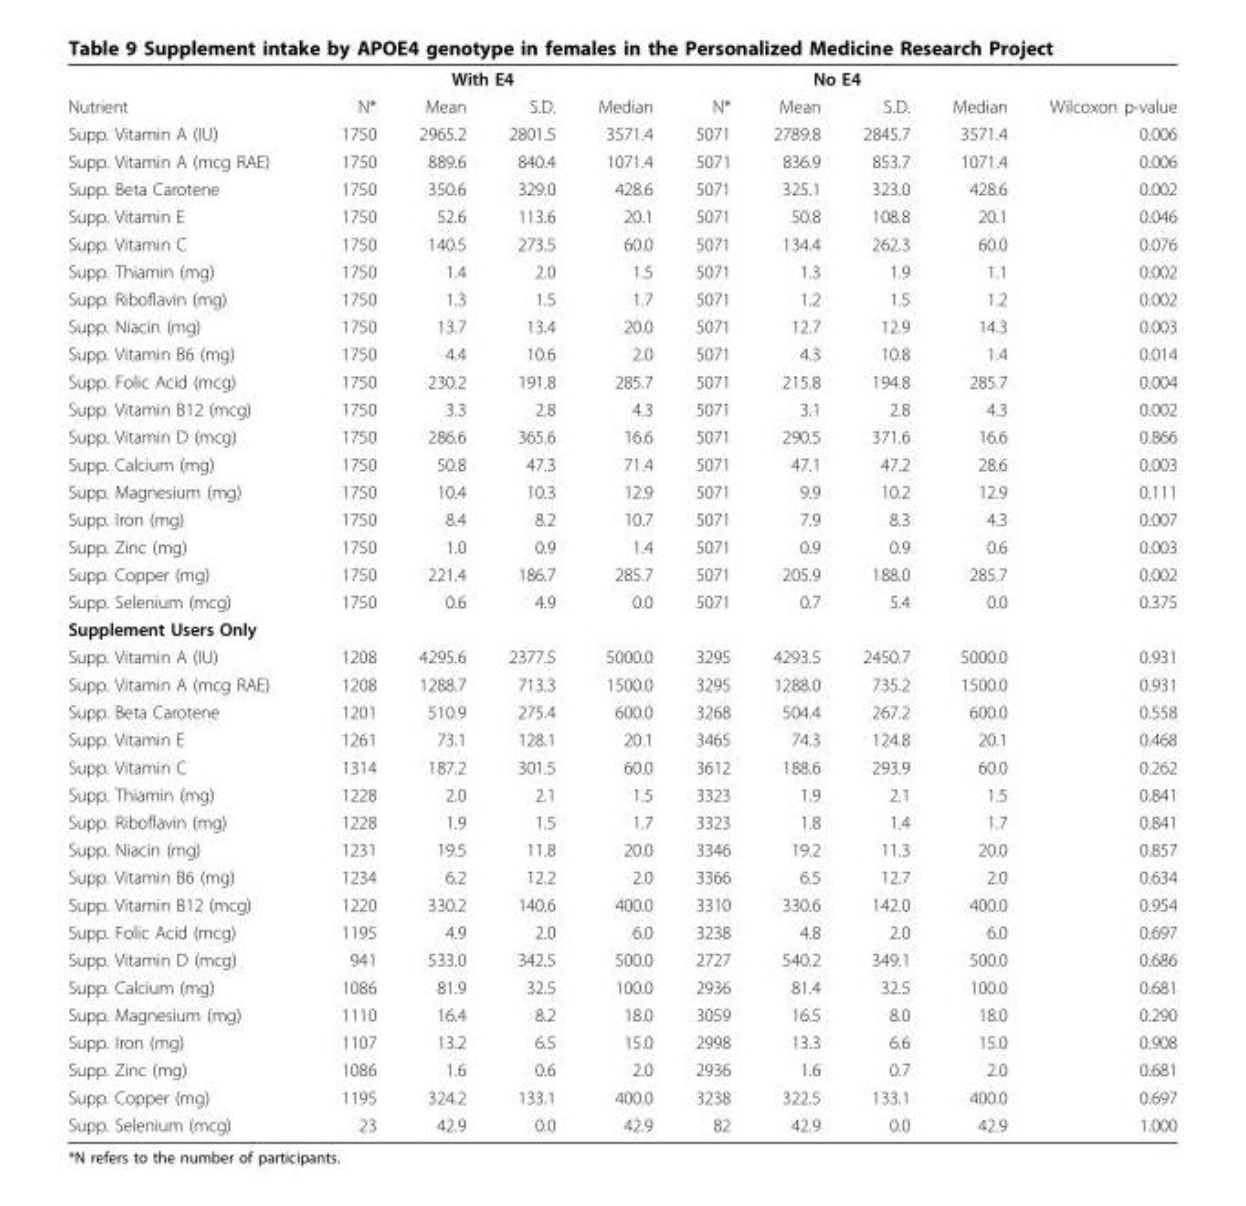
<table><thead><tr><td rowspan="2">Nutrient</td><td colspan="4">With E4</td><td colspan="4">No E4</td><td rowspan="2">Wilcoxon p-value</td></tr><tr><td>N*</td><td>Mean</td><td>S.D.</td><td>Median</td><td>N*</td><td>Mean</td><td>S.D.</td><td>Median</td></tr></thead><tbody><tr><td>Supp. Vitamin A (IU)</td><td>1750</td><td>2965.2</td><td>2801.5</td><td>3571.4</td><td>5071</td><td>2789.8</td><td>2845.7</td><td>3571.4</td><td>0.006</td></tr><tr><td>Supp. Vitamin A (mcg RAE)</td><td>1750</td><td>889.6</td><td>840.4</td><td>1071.4</td><td>5071</td><td>836.9</td><td>853.7</td><td>1071.4</td><td>0.006</td></tr><tr><td>Supp. Beta Carotene</td><td>1750</td><td>350.6</td><td>329.0</td><td>428.6</td><td>5071</td><td>325.1</td><td>323.0</td><td>428.6</td><td>0.002</td></tr><tr><td>Supp. Vitamin E</td><td>1750</td><td>52.6</td><td>113.6</td><td>20.1</td><td>5071</td><td>50.8</td><td>108.8</td><td>20.1</td><td>0.046</td></tr><tr><td>Supp. Vitamin C</td><td>1750</td><td>140.5</td><td>273.5</td><td>60.0</td><td>5071</td><td>134.4</td><td>262.3</td><td>60.0</td><td>0.076</td></tr><tr><td>Supp. Thiamin (mg)</td><td>1750</td><td>1.4</td><td>2.0</td><td>1.5</td><td>5071</td><td>1.3</td><td>1.9</td><td>1.1</td><td>0.002</td></tr><tr><td>Supp. Riboflavin (mg)</td><td>1750</td><td>1.3</td><td>1.5</td><td>1.7</td><td>5071</td><td>1.2</td><td>1.5</td><td>1.2</td><td>0.002</td></tr><tr><td>Supp. Niacin (mg)</td><td>1750</td><td>13.7</td><td>13.4</td><td>20.0</td><td>5071</td><td>12.7</td><td>12.9</td><td>14.3</td><td>0.003</td></tr><tr><td>Supp. Vitamin B6 (mg)</td><td>1750</td><td>4.4</td><td>10.6</td><td>2.0</td><td>5071</td><td>4.3</td><td>10.8</td><td>1.4</td><td>0.014</td></tr><tr><td>Supp. Folic Acid (mcg)</td><td>1750</td><td>230.2</td><td>191.8</td><td>285.7</td><td>5071</td><td>215.8</td><td>194.8</td><td>285.7</td><td>0.004</td></tr><tr><td>Supp. Vitamin B12 (mcg)</td><td>1750</td><td>3.3</td><td>2.8</td><td>4.3</td><td>5071</td><td>3.1</td><td>2.8</td><td>4.3</td><td>0.002</td></tr><tr><td>Supp. Vitamin D (mcg)</td><td>1750</td><td>286.6</td><td>365.6</td><td>16.6</td><td>5071</td><td>290.5</td><td>371.6</td><td>16.6</td><td>0.866</td></tr><tr><td>Supp. Calcium (mg)</td><td>1750</td><td>50.8</td><td>47.3</td><td>71.4</td><td>5071</td><td>47.1</td><td>47.2</td><td>28.6</td><td>0.003</td></tr><tr><td>Supp. Magnesium (mg)</td><td>1750</td><td>10.4</td><td>10.3</td><td>12.9</td><td>5071</td><td>9.9</td><td>10.2</td><td>12.9</td><td>0.111</td></tr><tr><td>Supp. Iron (mg)</td><td>1750</td><td>8.4</td><td>8.2</td><td>10.7</td><td>5071</td><td>7.9</td><td>8.3</td><td>4.3</td><td>0.007</td></tr><tr><td>Supp. Zinc (mg)</td><td>1750</td><td>1.0</td><td>0.9</td><td>1.4</td><td>5071</td><td>0.9</td><td>0.9</td><td>0.6</td><td>0.003</td></tr><tr><td>Supp. Copper (mg)</td><td>1750</td><td>221.4</td><td>186.7</td><td>285.7</td><td>5071</td><td>205.9</td><td>188.0</td><td>285.7</td><td>0.002</td></tr><tr><td>Supp. Selenium (mcg)</td><td>1750</td><td>0.6</td><td>4.9</td><td>0.0</td><td>5071</td><td>0.7</td><td>5.4</td><td>0.0</td><td>0.375</td></tr><tr><td colspan="10">Supplement Users Only</td></tr><tr><td>Supp. Vitamin A (IU)</td><td>1208</td><td>4295.6</td><td>2377.5</td><td>5000.0</td><td>3295</td><td>4293.5</td><td>2450.7</td><td>5000.0</td><td>0.931</td></tr><tr><td>Supp. Vitamin A (mcg RAE)</td><td>1208</td><td>1288.7</td><td>713.3</td><td>1500.0</td><td>3295</td><td>1288.0</td><td>735.2</td><td>1500.0</td><td>0.931</td></tr><tr><td>Supp. Beta Carotene</td><td>1201</td><td>510.9</td><td>275.4</td><td>600.0</td><td>3268</td><td>504.4</td><td>267.2</td><td>600.0</td><td>0.558</td></tr><tr><td>Supp. Vitamin E</td><td>1261</td><td>73.1</td><td>128.1</td><td>20.1</td><td>3465</td><td>74.3</td><td>124.8</td><td>20.1</td><td>0.468</td></tr><tr><td>Supp. Vitamin C</td><td>1314</td><td>187.2</td><td>301.5</td><td>60.0</td><td>3612</td><td>188.6</td><td>293.9</td><td>60.0</td><td>0.262</td></tr><tr><td>Supp. Thiamin (mg)</td><td>1228</td><td>2.0</td><td>2.1</td><td>1.5</td><td>3323</td><td>1.9</td><td>2.1</td><td>1.5</td><td>0.841</td></tr><tr><td>Supp. Riboflavin (mg)</td><td>1228</td><td>1.9</td><td>1.5</td><td>1.7</td><td>3323</td><td>1.8</td><td>1.4</td><td>1.7</td><td>0.841</td></tr><tr><td>Supp. Niacin (mg)</td><td>1231</td><td>19.5</td><td>11.8</td><td>20.0</td><td>3346</td><td>19.2</td><td>11.3</td><td>20.0</td><td>0.857</td></tr><tr><td>Supp. Vitamin B6 (mg)</td><td>1234</td><td>6.2</td><td>12.2</td><td>2.0</td><td>3366</td><td>6.5</td><td>12.7</td><td>2.0</td><td>0.634</td></tr><tr><td>Supp. Vitamin B12 (mcg)</td><td>1220</td><td>330.2</td><td>140.6</td><td>400.0</td><td>3310</td><td>330.6</td><td>142.0</td><td>400.0</td><td>0.954</td></tr><tr><td>Supp. Folic Acid (mcg)</td><td>1195</td><td>4.9</td><td>2.0</td><td>6.0</td><td>3238</td><td>4.8</td><td>2.0</td><td>6.0</td><td>0.697</td></tr><tr><td>Supp. Vitamin D (mcg)</td><td>941</td><td>533.0</td><td>342.5</td><td>500.0</td><td>2727</td><td>540.2</td><td>349.1</td><td>500.0</td><td>0.686</td></tr><tr><td>Supp. Calcium (mg)</td><td>1086</td><td>81.9</td><td>32.5</td><td>100.0</td><td>2936</td><td>81.4</td><td>32.5</td><td>100.0</td><td>0.681</td></tr><tr><td>Supp. Magnesium (mg)</td><td>1110</td><td>16.4</td><td>8.2</td><td>18.0</td><td>3059</td><td>16.5</td><td>8.0</td><td>18.0</td><td>0.290</td></tr><tr><td>Supp. Iron (mg)</td><td>1107</td><td>13.2</td><td>6.5</td><td>15.0</td><td>2998</td><td>13.3</td><td>6.6</td><td>15.0</td><td>0.908</td></tr><tr><td>Supp. Zinc (mg)</td><td>1086</td><td>1.6</td><td>0.6</td><td>2.0</td><td>2936</td><td>1.6</td><td>0.7</td><td>2.0</td><td>0.681</td></tr><tr><td>Supp. Copper (mg)</td><td>1195</td><td>324.2</td><td>133.1</td><td>400.0</td><td>3238</td><td>322.5</td><td>133.1</td><td>400.0</td><td>0.697</td></tr><tr><td>Supp. Selenium (mcg)</td><td>23</td><td>42.9</td><td>0.0</td><td>42.9</td><td>82</td><td>42.9</td><td>0.0</td><td>42.9</td><td>1.000</td></tr></tbody></table>